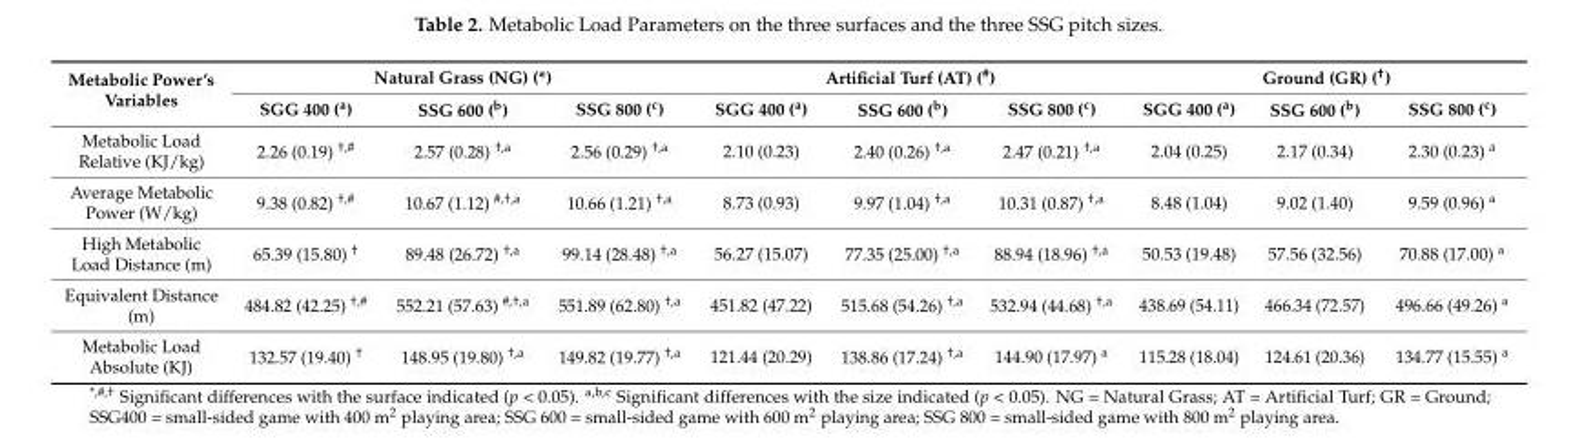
<table><thead><tr><td rowspan="2">Metabolic Power’s Variables</td><td colspan="3">Natural Grass (NG) (*)</td><td colspan="3">Artificial Turf (AT) (<sup>#</sup>)</td><td colspan="3">Ground (GR) (<sup>†</sup>)</td></tr><tr><td>SGG 400 (<sup>a</sup>)</td><td>SSG 600 (<sup>b</sup>)</td><td>SSG 800 (<sup>c</sup>)</td><td>SGG 400 (<sup>a</sup>)</td><td>SSG 600 (<sup>b</sup>)</td><td>SSG 800 (<sup>c</sup>)</td><td>SGG 400 (<sup>a</sup>)</td><td>SSG 600 (<sup>b</sup>)</td><td>SSG 800 (<sup>c</sup>)</td></tr></thead><tbody><tr><td>Metabolic Load Relative (KJ/kg)</td><td>2.26 (0.19) <sup>†,#</sup></td><td>2.57 (0.28) <sup>†,a</sup></td><td>2.56 (0.29) <sup>†,a</sup></td><td>2.10 (0.23)</td><td>2.40 (0.26) <sup>†,a</sup></td><td>2.47 (0.21) <sup>†,a</sup></td><td>2.04 (0.25)</td><td>2.17 (0.34)</td><td>2.30 (0.23) <sup>a</sup></td></tr><tr><td>Average Metabolic Power (W/kg)</td><td>9.38 (0.82) <sup>†,#</sup></td><td>10.67 (1.12) <sup>#,†,a</sup></td><td>10.66 (1.21) <sup>†,a</sup></td><td>8.73 (0.93)</td><td>9.97 (1.04) <sup>†,a</sup></td><td>10.31 (0.87) <sup>†,a</sup></td><td>8.48 (1.04)</td><td>9.02 (1.40)</td><td>9.59 (0.96) <sup>a</sup></td></tr><tr><td>High Metabolic Load Distance (m)</td><td>65.39 (15.80) <sup>†</sup></td><td>89.48 (26.72) <sup>†,a</sup></td><td>99.14 (28.48) <sup>†,a</sup></td><td>56.27 (15.07)</td><td>77.35 (25.00) <sup>†,a</sup></td><td>88.94 (18.96) <sup>†,a</sup></td><td>50.53 (19.48)</td><td>57.56 (32.56)</td><td>70.88 (17.00) <sup>a</sup></td></tr><tr><td>Equivalent Distance (m)</td><td>484.82 (42.25) <sup>†,#</sup></td><td>552.21 (57.63) <sup>#,†,a</sup></td><td>551.89 (62.80) <sup>†,a</sup></td><td>451.82 (47.22)</td><td>515.68 (54.26) <sup>†,a</sup></td><td>532.94 (44.68) <sup>†,a</sup></td><td>438.69 (54.11)</td><td>466.34 (72.57)</td><td>496.66 (49.26) <sup>a</sup></td></tr><tr><td>Metabolic Load Absolute (KJ)</td><td>132.57 (19.40) <sup>†</sup></td><td>148.95 (19.80) <sup>†,a</sup></td><td>149.82 (19.77) <sup>†,a</sup></td><td>121.44 (20.29)</td><td>138.86 (17.24) <sup>†,a</sup></td><td>144.90 (17.97) <sup>a</sup></td><td>115.28 (18.04)</td><td>124.61 (20.36)</td><td>134.77 (15.55) <sup>a</sup></td></tr></tbody></table>